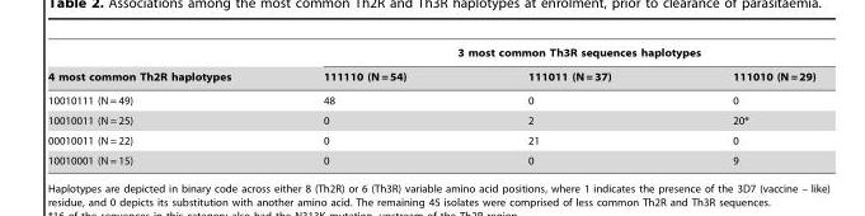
<table><thead><tr><td rowspan="2">4 most common Th2R haplotypes</td><td colspan="3">3 most common Th3R sequences haplotypes</td></tr><tr><td>111110 (N = 54)</td><td>111011 (N = 37)</td><td>111010 (N = 29)</td></tr></thead><tbody><tr><td>10010111 (N = 49)</td><td>48</td><td>0</td><td>0</td></tr><tr><td>10010011 (N = 25)</td><td>0</td><td>2</td><td>20*</td></tr><tr><td>00010011 (N = 22)</td><td>0</td><td>21</td><td>0</td></tr><tr><td>10010001 (N = 15)</td><td>0</td><td>0</td><td>9</td></tr></tbody></table>